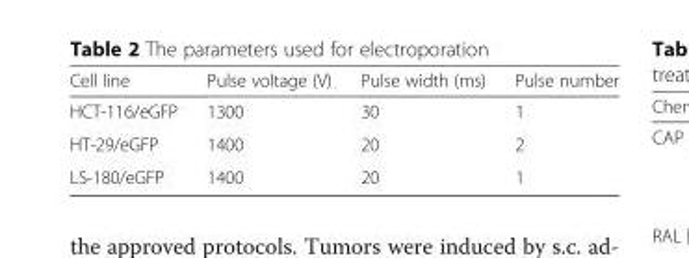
<table><thead><tr><td>Cell line</td><td>Pulse voltage (V)</td><td>Pulse width (ms)</td><td>Pulse number</td></tr></thead><tbody><tr><td>HCT-116/eGFP</td><td>1300</td><td>30</td><td>1</td></tr><tr><td>HT-29/eGFP</td><td>1400</td><td>20</td><td>2</td></tr><tr><td>LS-180/eGFP</td><td>1400</td><td>20</td><td>1</td></tr></tbody></table>